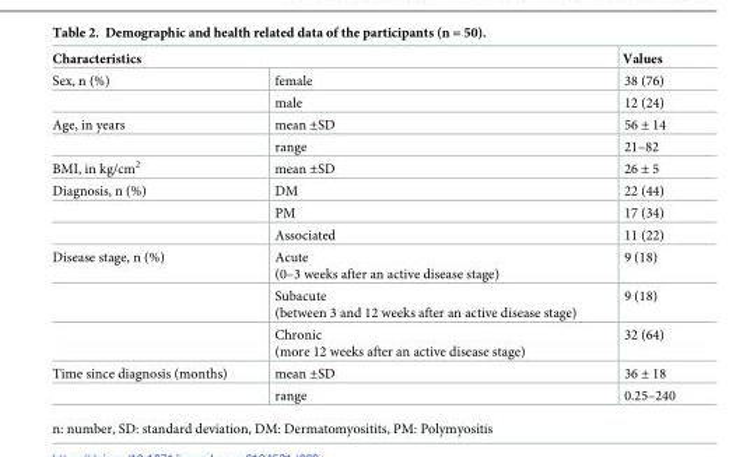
<table><thead><tr><td colspan="2">Characteristics</td><td rowspan="2">Values 38 (76)</td></tr><tr><td>Sex, n (%)</td><td>female</td></tr></thead><tbody><tr><td></td><td>male</td><td>12 (24)</td></tr><tr><td rowspan="2">Age, in years</td><td>mean ±SD</td><td>56 ± 14</td></tr><tr><td>range</td><td>21–82</td></tr><tr><td>BMI, in kg/cm<sup>2</sup></td><td>mean ±SD</td><td>26 ± 5</td></tr><tr><td rowspan="3">Diagnosis, n (%)</td><td>DM</td><td>22 (44)</td></tr><tr><td>PM</td><td>17 (34)</td></tr><tr><td>Associated</td><td>11 (22)</td></tr><tr><td rowspan="3">Disease stage, n (%)</td><td>Acute (0–3 weeks after an active disease stage)</td><td>9 (18)</td></tr><tr><td>Subacute (between 3 and 12 weeks after an active disease stage)</td><td>9 (18)</td></tr><tr><td>Chronic (more 12 weeks after an active disease stage)</td><td>32 (64)</td></tr><tr><td rowspan="2">Time since diagnosis (months)</td><td>mean ±SD</td><td>36 ± 18</td></tr><tr><td>range</td><td>0.25–240</td></tr></tbody></table>